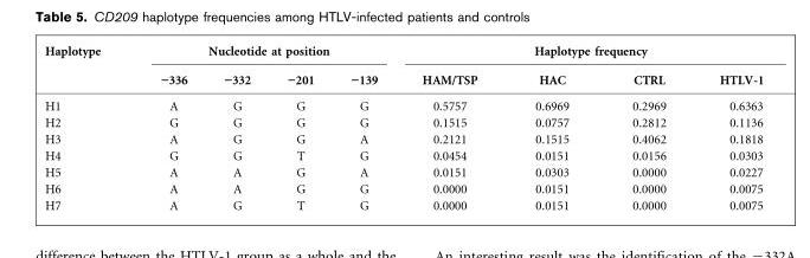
<table><thead><tr><td rowspan="2">Haplotype</td><td colspan="4">Nucleotide at position</td><td colspan="4">Haplotype frequency</td></tr><tr><td>”336</td><td>”332</td><td>”201</td><td>”139</td><td>HAM/TSP</td><td>HAC</td><td>CTRL</td><td>HTLV-1</td></tr></thead><tbody><tr><td>H1</td><td>A</td><td>G</td><td>G</td><td>G</td><td>0.5757</td><td>0.6969</td><td>0.2969</td><td>0.6363</td></tr><tr><td>H2</td><td>G</td><td>G</td><td>G</td><td>G</td><td>0.1515</td><td>0.0757</td><td>0.2812</td><td>0.1136</td></tr><tr><td>H3</td><td>A</td><td>G</td><td>G</td><td>A</td><td>0.2121</td><td>0.1515</td><td>0.4062</td><td>0.1818</td></tr><tr><td>H4</td><td>G</td><td>G</td><td>T</td><td>G</td><td>0.0454</td><td>0.0151</td><td>0.0156</td><td>0.0303</td></tr><tr><td>H5</td><td>A</td><td>A</td><td>G</td><td>A</td><td>0.0151</td><td>0.0303</td><td>0.0000</td><td>0.0227</td></tr><tr><td>H6</td><td>A</td><td>A</td><td>G</td><td>G</td><td>0.0000</td><td>0.0151</td><td>0.0000</td><td>0.0075</td></tr><tr><td>H7</td><td>A</td><td>G</td><td>T</td><td>G</td><td>0.0000</td><td>0.0151</td><td>0.0000</td><td>0.0075</td></tr></tbody></table>